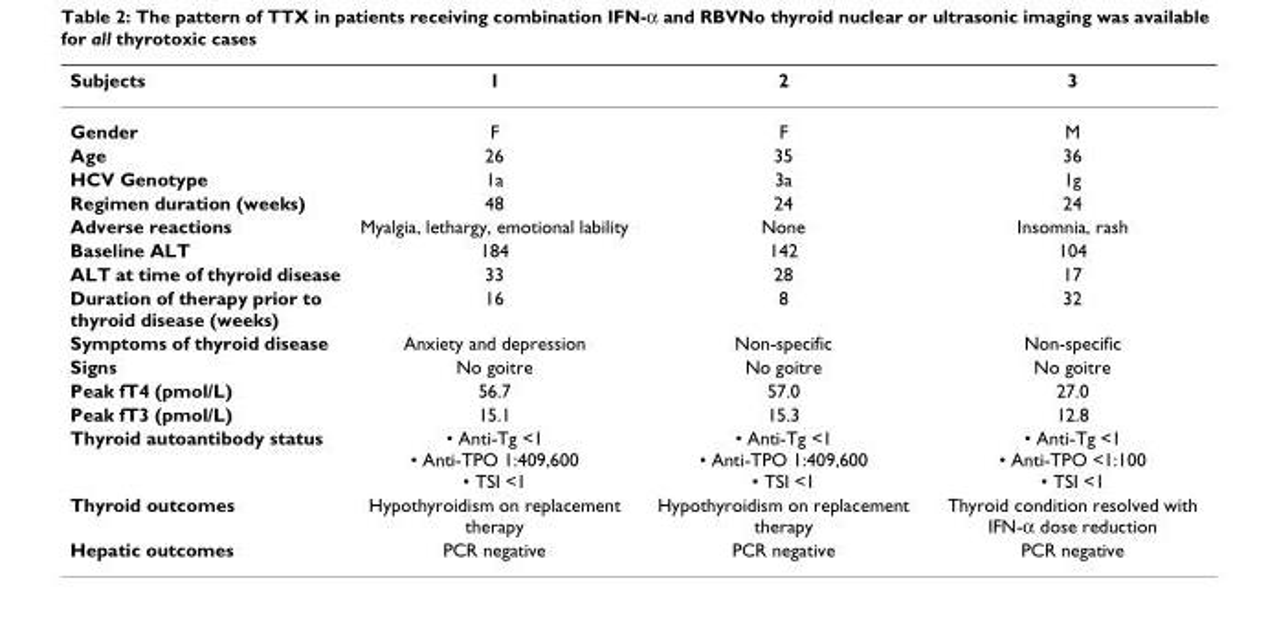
<table><thead><tr><td>Subjects</td><td>1</td><td>2</td><td>3</td></tr></thead><tbody><tr><td>Gender</td><td>F</td><td>F</td><td>M</td></tr><tr><td>Age</td><td>26</td><td>35</td><td>36</td></tr><tr><td>HCV Genotype</td><td>1a</td><td>3a</td><td>1g</td></tr><tr><td>Regimen duration (weeks)</td><td>48</td><td>24</td><td>24</td></tr><tr><td>Adverse reactions</td><td>Myalgia, lethargy, emotional lability</td><td>None</td><td>Insomnia, rash</td></tr><tr><td>Baseline ALT</td><td>184</td><td>142</td><td>104</td></tr><tr><td>ALT at time of thyroid disease</td><td>33</td><td>28</td><td>17</td></tr><tr><td>Duration of therapy prior to thyroid disease (weeks)</td><td>16</td><td>8</td><td>32</td></tr><tr><td>Symptoms of thyroid disease</td><td>Anxiety and depression</td><td>Non-specific</td><td>Non-specific</td></tr><tr><td>Signs</td><td>No goitre</td><td>No goitre</td><td>No goitre</td></tr><tr><td>Peak fT4 (pmol/L)</td><td>56.7</td><td>57.0</td><td>27.0</td></tr><tr><td>Peak fT3 (pmol/L)</td><td>15.1</td><td>15.3</td><td>12.8</td></tr><tr><td>Thyroid autoantibody status</td><td>• Anti-Tg &lt;1 • Anti-TPO 1:409,600 • TSI &lt;1</td><td>• Anti-Tg &lt;1 • Anti-TPO 1:409,600 • TSI &lt;1</td><td>• Anti-Tg &lt;1 • Anti-TPO &lt;1:100 • TSI &lt;1</td></tr><tr><td>Thyroid outcomes</td><td>Hypothyroidism on replacement therapy</td><td>Hypothyroidism on replacement therapy</td><td>Thyroid condition resolved with IFN-α dose reduction</td></tr><tr><td>Hepatic outcomes</td><td>PCR negative</td><td>PCR negative</td><td>PCR negative</td></tr></tbody></table>